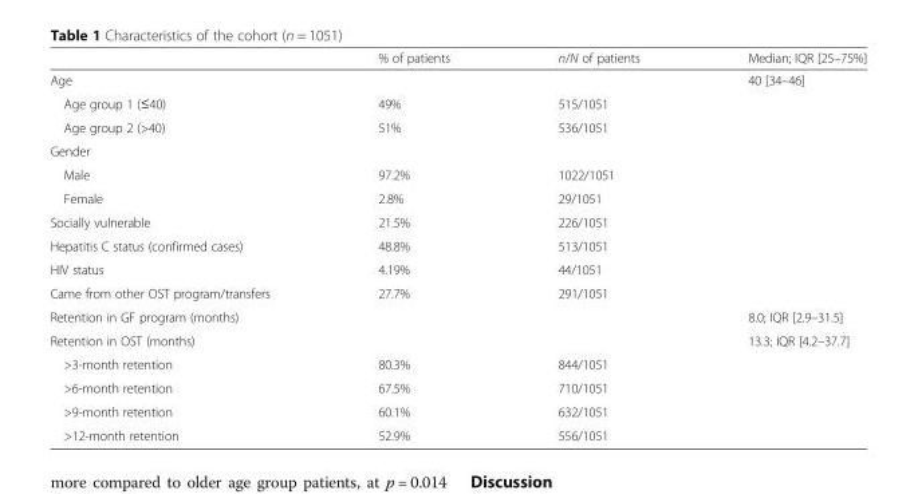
<table><thead><tr><td></td><td>% of patients</td><td>n/N of patients</td><td>Median; IQR [25–75%]</td></tr></thead><tbody><tr><td>Age</td><td></td><td></td><td>40 [34–46]</td></tr><tr><td>Age group 1 (≤40)</td><td>49%</td><td>515/1051</td><td></td></tr><tr><td>Age group 2 (&gt;40)</td><td>51%</td><td>536/1051</td><td></td></tr><tr><td colspan="4">Gender</td></tr><tr><td>Male</td><td>97.2%</td><td>1022/1051</td><td></td></tr><tr><td>Female</td><td>2.8%</td><td>29/1051</td><td></td></tr><tr><td>Socially vulnerable</td><td>21.5%</td><td>226/1051</td><td></td></tr><tr><td>Hepatitis C status (confirmed cases)</td><td>48.8%</td><td>513/1051</td><td></td></tr><tr><td>HIV status</td><td>4.19%</td><td>44/1051</td><td></td></tr><tr><td>Came from other OST program/transfers</td><td>27.7%</td><td>291/1051</td><td></td></tr><tr><td>Retention in GF program (months)</td><td></td><td></td><td>8.0; IQR [2.9–31.5]</td></tr><tr><td>Retention in OST (months)</td><td></td><td></td><td>13.3; IQR [4.2–37.7]</td></tr><tr><td>&gt;3-month retention</td><td>80.3%</td><td>844/1051</td><td></td></tr><tr><td>&gt;6-month retention</td><td>67.5%</td><td>710/1051</td><td></td></tr><tr><td>&gt;9-month retention</td><td>60.1%</td><td>632/1051</td><td></td></tr><tr><td>&gt;12-month retention</td><td>52.9%</td><td>556/1051</td><td></td></tr></tbody></table>